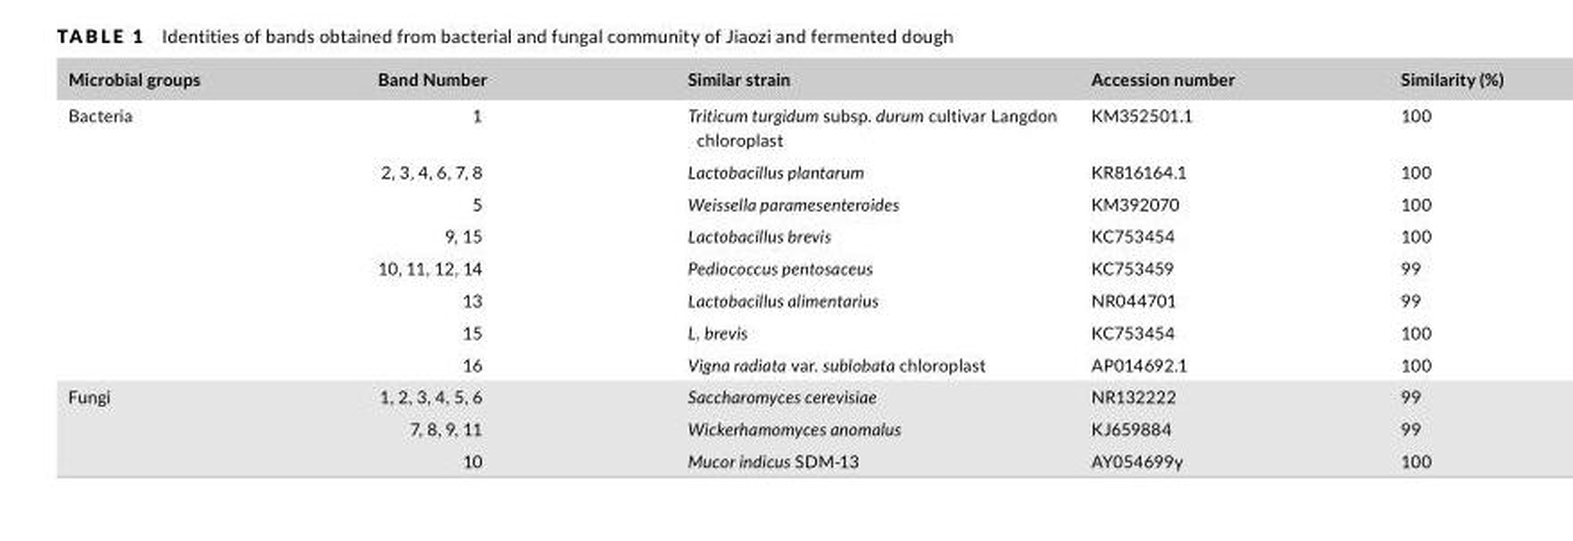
<table><thead><tr><td>Microbial groups</td><td>Band Number</td><td>Similar strain</td><td>Accession number</td><td>Similarity (%)</td></tr></thead><tbody><tr><td rowspan="8">Bacteria</td><td>1</td><td>Triticum turgidum subsp. durum cultivar Langdon chloroplast</td><td>KM352501.1</td><td>100</td></tr><tr><td>2, 3, 4, 6, 7, 8</td><td>Lactobacillus plantarum</td><td>KR816164.1</td><td>100</td></tr><tr><td>5</td><td>Weissella paramesenteroides</td><td>KM392070</td><td>100</td></tr><tr><td>9, 15</td><td>Lactobacillus brevis</td><td>KC753454</td><td>100</td></tr><tr><td>10, 11, 12, 14</td><td>Pediococcus pentosaceus</td><td>KC753459</td><td>99</td></tr><tr><td>13</td><td>Lactobacillus alimentarius</td><td>NR044701</td><td>99</td></tr><tr><td>15</td><td>L. brevis</td><td>KC753454</td><td>100</td></tr><tr><td>16</td><td>Vigna radiata var. sublobata chloroplast</td><td>AP014692.1</td><td>100</td></tr><tr><td rowspan="3">Fungi</td><td>1, 2, 3, 4, 5, 6</td><td>Saccharomyces cerevisiae</td><td>NR132222</td><td>99</td></tr><tr><td>7, 8, 9, 11</td><td>Wickerhamomyces anomalus</td><td>KJ659884</td><td>99</td></tr><tr><td>10</td><td>Mucor indicus SDM- 13</td><td>AY054699y</td><td>100</td></tr></tbody></table>